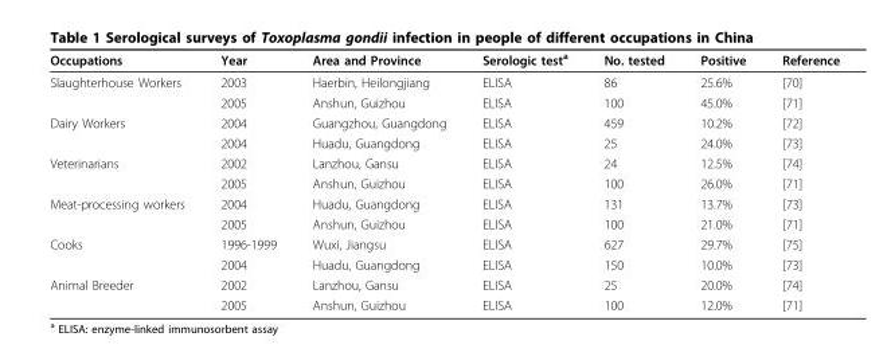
<table><thead><tr><td>Occupations</td><td>Year</td><td>Area and Province</td><td>Serologic test<sup>a</sup></td><td>No. tested</td><td>Positive</td><td>Reference</td></tr></thead><tbody><tr><td rowspan="2">Slaughterhouse Workers</td><td>2003</td><td>Haerbin, Heilongjiang</td><td>ELISA</td><td>86</td><td>25.6%</td><td>[70]</td></tr><tr><td>2005</td><td>Anshun, Guizhou</td><td>ELISA</td><td>100</td><td>45.0%</td><td>[71]</td></tr><tr><td rowspan="2">Dairy Workers</td><td>2004</td><td>Guangzhou, Guangdong</td><td>ELISA</td><td>459</td><td>10.2%</td><td>[72]</td></tr><tr><td>2004</td><td>Huadu, Guangdong</td><td>ELISA</td><td>25</td><td>24.0%</td><td>[73]</td></tr><tr><td rowspan="2">Veterinarians</td><td>2002</td><td>Lanzhou, Gansu</td><td>ELISA</td><td>24</td><td>12.5%</td><td>[74]</td></tr><tr><td>2005</td><td>Anshun, Guizhou</td><td>ELISA</td><td>100</td><td>26.0%</td><td>[71]</td></tr><tr><td rowspan="2">Meat-processing workers</td><td>2004</td><td>Huadu, Guangdong</td><td>ELISA</td><td>131</td><td>13.7%</td><td>[73]</td></tr><tr><td>2005</td><td>Anshun, Guizhou</td><td>ELISA</td><td>100</td><td>21.0%</td><td>[71]</td></tr><tr><td rowspan="2">Cooks</td><td>1996-1999</td><td>Wuxi, Jiangsu</td><td>ELISA</td><td>627</td><td>29.7%</td><td>[75]</td></tr><tr><td>2004</td><td>Huadu, Guangdong</td><td>ELISA</td><td>150</td><td>10.0%</td><td>[73]</td></tr><tr><td rowspan="2">Animal Breeder</td><td>2002</td><td>Lanzhou, Gansu</td><td>ELISA</td><td>25</td><td>20.0%</td><td>[74]</td></tr><tr><td>2005</td><td>Anshun, Guizhou</td><td>ELISA</td><td>100</td><td>12.0%</td><td>[71]</td></tr></tbody></table>